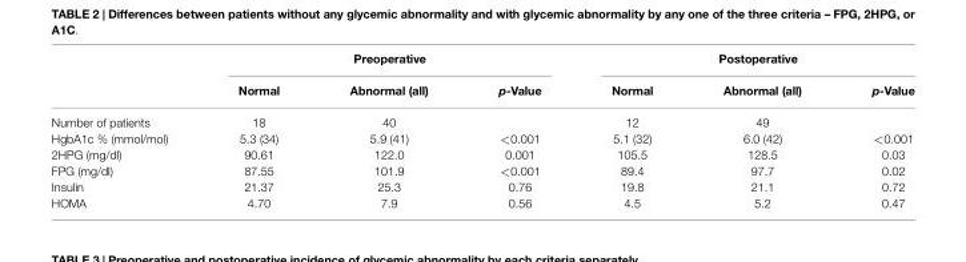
<table><thead><tr><td rowspan="2"></td><td colspan="3">Preoperative</td><td colspan="3">Postoperative</td></tr><tr><td>Normal</td><td>Abnormal (all)</td><td>p-Value</td><td>Normal</td><td>Abnormal (all)</td><td>p-Value</td></tr></thead><tbody><tr><td>Number of patients</td><td>18</td><td>40</td><td></td><td>12</td><td>49</td><td></td></tr><tr><td>HgbA1c % (mmol/mol)</td><td>5.3 (34)</td><td>5.9 (41)</td><td>&lt;0.001</td><td>5.1 (32)</td><td>6.0 (42)</td><td>&lt;0.001</td></tr><tr><td>2HPG (mg/dl)</td><td>90.61</td><td>122.0</td><td>0.001</td><td>105.5</td><td>128.5</td><td>0.03</td></tr><tr><td>FPG (mg/dl)</td><td>87.55</td><td>101.9</td><td>&lt;0.001</td><td>89.4</td><td>97.7</td><td>0.02</td></tr><tr><td>Insulin</td><td>21.37</td><td>25.3</td><td>0.76</td><td>19.8</td><td>21.1</td><td>0.72</td></tr><tr><td>HOMA</td><td>4.70</td><td>7.9</td><td>0.56</td><td>4.5</td><td>5.2</td><td>0.47</td></tr></tbody></table>